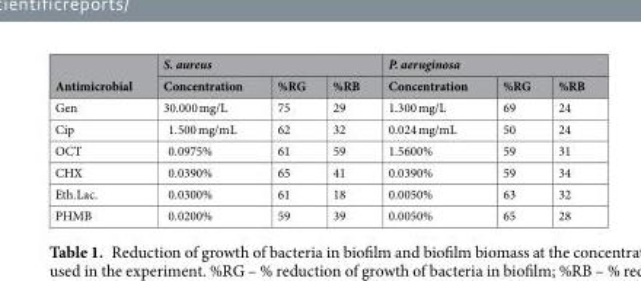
<table><thead><tr><td rowspan="2">Antimicrobial</td><td colspan="3">S. aureus</td><td colspan="3">P. aeruginosa</td></tr><tr><td>Concentration</td><td>%RG</td><td>%RB</td><td>Concentration</td><td>%RG</td><td>%RB</td></tr></thead><tbody><tr><td>Gen</td><td>30.000 mg/L</td><td>75</td><td>29</td><td>1.300 mg/L</td><td>69</td><td>24</td></tr><tr><td>Cip</td><td>1.500 mg/mL</td><td>62</td><td>32</td><td>0.024 mg/mL</td><td>50</td><td>24</td></tr><tr><td>OCT</td><td>0.0975%</td><td>61</td><td>59</td><td>1.5600%</td><td>59</td><td>31</td></tr><tr><td>CHX</td><td>0.0390%</td><td>65</td><td>41</td><td>0.0390%</td><td>59</td><td>34</td></tr><tr><td>Eth.Lac.</td><td>0.0300%</td><td>61</td><td>18</td><td>0.0050%</td><td>63</td><td>32</td></tr><tr><td>PHMB</td><td>0.0200%</td><td>59</td><td>39</td><td>0.0050%</td><td>65</td><td>28</td></tr></tbody></table>